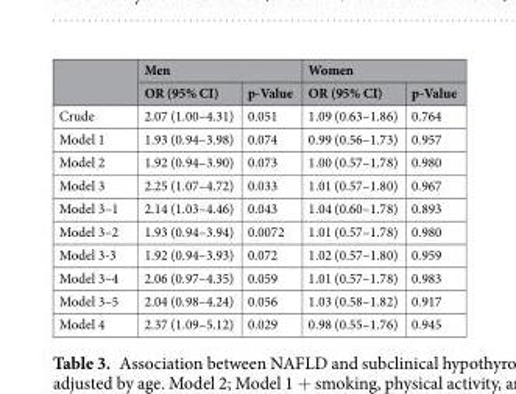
<table><thead><tr><td rowspan="2"></td><td colspan="2">Men</td><td colspan="2">Women</td></tr><tr><td>OR (95% CI)</td><td>p-Value</td><td>OR (95% CI)</td><td>p-Value</td></tr></thead><tbody><tr><td>Crude</td><td>2.07 (1.00–4.31)</td><td>0.051</td><td>1.09 (0.63–1.86)</td><td>0.764</td></tr><tr><td>Model 1</td><td>1.93 (0.94–3.98)</td><td>0.074</td><td>0.99 (0.56–1.73)</td><td>0.957</td></tr><tr><td>Model 2</td><td>1.92 (0.94–3.90)</td><td>0.073</td><td>1.00 (0.57–1.78)</td><td>0.980</td></tr><tr><td>Model 3</td><td>2.25 (1.07–4.72)</td><td>0.033</td><td>1.01 (0.57–1.80)</td><td>0.967</td></tr><tr><td>Model 3–1</td><td>2.14 (1.03–4.46)</td><td>0.043</td><td>1.04 (0.60–1.78)</td><td>0.893</td></tr><tr><td>Model 3–2</td><td>1.93 (0.94–3.94)</td><td>0.0072</td><td>1.01 (0.57–1.78)</td><td>0.980</td></tr><tr><td>Model 3-3</td><td>1.92 (0.94–3.93)</td><td>0.072</td><td>1.02 (0.57–1.80)</td><td>0.959</td></tr><tr><td>Model 3–4</td><td>2.06 (0.97–4.35)</td><td>0.059</td><td>1.01 (0.57–1.78)</td><td>0.983</td></tr><tr><td>Model 3–5</td><td>2.04 (0.98–4.24)</td><td>0.056</td><td>1.03 (0.58–1.82)</td><td>0.917</td></tr><tr><td>Model 4</td><td>2.37 (1.09–5.12)</td><td>0.029</td><td>0.98 (0.55–1.76)</td><td>0.945</td></tr></tbody></table>